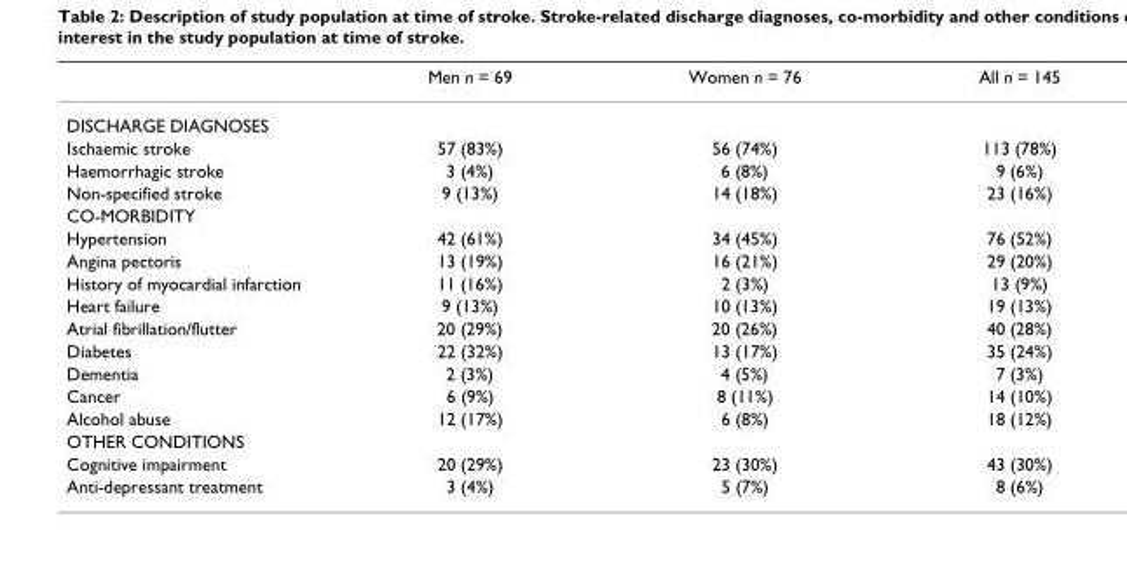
<table><thead><tr><td></td><td>Men n = 69</td><td>Women n = 76</td><td>All n = 145</td></tr></thead><tbody><tr><td colspan="4">DISCHARGE DIAGNOSES</td></tr><tr><td>Ischaemic stroke</td><td>57 (83%)</td><td>56 (74%)</td><td>113 (78%)</td></tr><tr><td>Haemorrhagic stroke</td><td>3 (4%)</td><td>6 (8%)</td><td>9 (6%)</td></tr><tr><td>Non-specified stroke</td><td>9 (13%)</td><td>14 (18%)</td><td>23 (16%)</td></tr><tr><td colspan="4">CO-MORBIDITY</td></tr><tr><td>Hypertension</td><td>42 (61%)</td><td>34 (45%)</td><td>76 (52%)</td></tr><tr><td>Angina pectoris</td><td>13 (19%)</td><td>16 (21%)</td><td>29 (20%)</td></tr><tr><td>History of myocardial infarction</td><td>11 (16%)</td><td>2 (3%)</td><td>13 (9%)</td></tr><tr><td>Heart failure</td><td>9 (13%)</td><td>10 (13%)</td><td>19 (13%)</td></tr><tr><td>Atrial fibrillation/flutter</td><td>20 (29%)</td><td>20 (26%)</td><td>40 (28%)</td></tr><tr><td>Diabetes</td><td>22 (32%)</td><td>13 (17%)</td><td>35 (24%)</td></tr><tr><td>Dementia</td><td>2 (3%)</td><td>4 (5%)</td><td>7 (3%)</td></tr><tr><td>Cancer</td><td>6 (9%)</td><td>8 (11%)</td><td>14 (10%)</td></tr><tr><td>Alcohol abuse</td><td>12 (17%)</td><td>6 (8%)</td><td>18 (12%)</td></tr><tr><td colspan="4">OTHER CONDITIONS</td></tr><tr><td>Cognitive impairment</td><td>20 (29%)</td><td>23 (30%)</td><td>43 (30%)</td></tr><tr><td>Anti-depressant treatment</td><td>3 (4%)</td><td>5 (7%)</td><td>8 (6%)</td></tr></tbody></table>